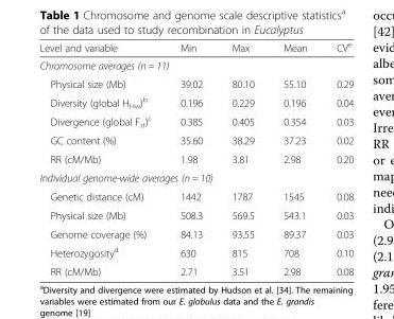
<table><thead><tr><td>Level and variable</td><td>Min</td><td>Max</td><td>Mean</td><td>CV<sup>e</sup></td></tr></thead><tbody><tr><td colspan="5">Chromosome averages (n = 11)</td></tr><tr><td>Physical size (Mb)</td><td>39.02</td><td>80.10</td><td>55.10</td><td>0.29</td></tr><tr><td>Diversity (global H<sub>Hw</sub>)<sup>b</sup></td><td>0.196</td><td>0.229</td><td>0.196</td><td>0.04</td></tr><tr><td>Divergence (global F<sub>st</sub>)<sup>c</sup></td><td>0.385</td><td>0.405</td><td>0.354</td><td>0.03</td></tr><tr><td>GC content (%)</td><td>35.60</td><td>38.29</td><td>37.23</td><td>0.02</td></tr><tr><td>RR (cM/Mb)</td><td>1.98</td><td>3.81</td><td>2.98</td><td>0.20</td></tr><tr><td colspan="5">Individual genome-wide averages (n = 10)</td></tr><tr><td>Genetic distance (cM)</td><td>1442</td><td>1787</td><td>1545</td><td>0.08</td></tr><tr><td>Physical size (Mb)</td><td>508.3</td><td>569.5</td><td>543.1</td><td>0.03</td></tr><tr><td>Genome coverage (%)</td><td>84.13</td><td>93.55</td><td>89.37</td><td>0.03</td></tr><tr><td>Heterozygosity<sup>d</sup></td><td>630</td><td>815</td><td>708</td><td>0.10</td></tr><tr><td>RR (cM/Mb)</td><td>2.71</td><td>3.51</td><td>2.98</td><td>0.08</td></tr></tbody></table>